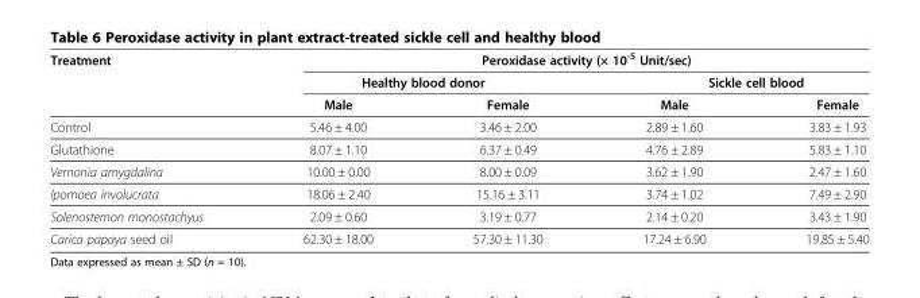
<table><thead><tr><td rowspan="3">Treatment</td><td colspan="4">Peroxidase activity (× 10<sup>-5</sup> Unit/sec)</td></tr><tr><td colspan="2">Healthy blood donor</td><td colspan="2">Sickle cell blood</td></tr><tr><td>Male</td><td>Female</td><td>Male</td><td>Female</td></tr></thead><tbody><tr><td>Control</td><td>5.46 ± 4.00</td><td>3.46 ± 2.00</td><td>2.89 ± 1.60</td><td>3.83 ± 1.93</td></tr><tr><td>Glutathione</td><td>8.07 ± 1.10</td><td>6.37 ± 0.49</td><td>4.76 ± 2.89</td><td>5.83 ± 1.10</td></tr><tr><td>Vernonia amygdalina</td><td>10.00 ± 0.00</td><td>8.00 ± 0.09</td><td>3.62 ± 1.90</td><td>2.47 ± 1.60</td></tr><tr><td>Ipomoea involucrata</td><td>18.06 ± 2.40</td><td>15.16 ± 3.11</td><td>3.74 ± 1.02</td><td>7.49 ± 2.90</td></tr><tr><td>Solenostemon monostachyus</td><td>2.09 ± 0.60</td><td>3.19 ± 0.77</td><td>2.14 ± 0.20</td><td>3.43 ± 1.90</td></tr><tr><td>Carica papaya seed oil</td><td>62.30 ± 18.00</td><td>57.30 ± 11.30</td><td>17.24 ± 6.90</td><td>19.85 ± 5.40</td></tr></tbody></table>